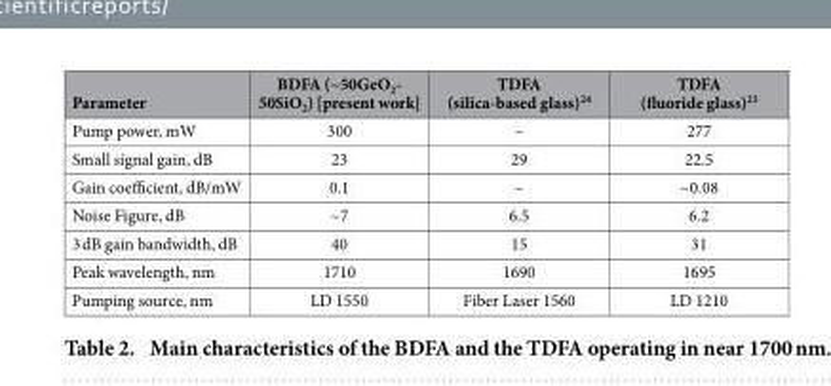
<table><thead><tr><td>Parameter</td><td>BDFA (~50GeO<sub>2</sub>- 50SiO<sub>2</sub>) [present work]</td><td>TDFA (silica-based glass)<sup>24</sup></td><td>TDFA (fluoride glass)<sup>23</sup></td></tr></thead><tbody><tr><td>Pump power, mW</td><td>300</td><td>–</td><td>277</td></tr><tr><td>Small signal gain, dB</td><td>23</td><td>29</td><td>22.5</td></tr><tr><td>Gain coefficient, dB/mW</td><td>0.1</td><td>–</td><td>~0.08</td></tr><tr><td>Noise Figure, dB</td><td>~7</td><td>6.5</td><td>6.2</td></tr><tr><td>3 dB gain bandwidth, dB</td><td>40</td><td>15</td><td>31</td></tr><tr><td>Peak wavelength, nm</td><td>1710</td><td>1690</td><td>1695</td></tr><tr><td>Pumping source, nm</td><td>LD 1550</td><td>Fiber Laser 1560</td><td>LD 1210</td></tr></tbody></table>